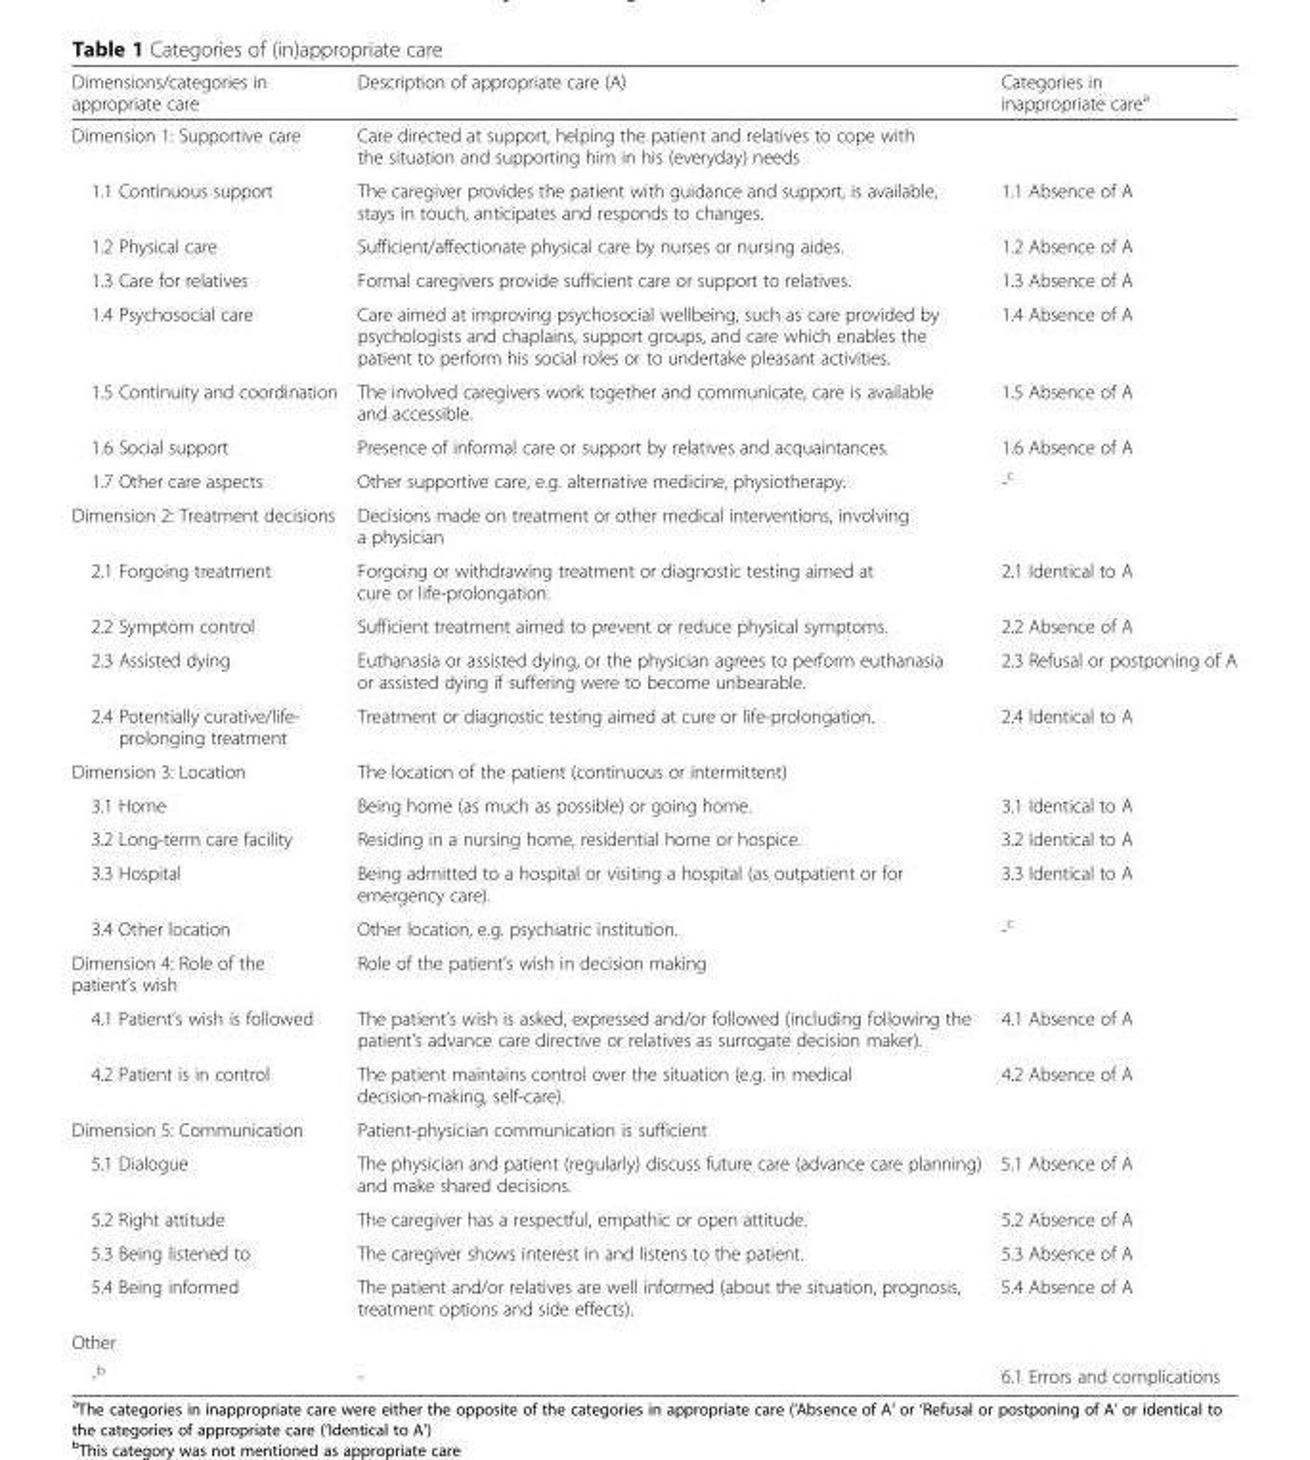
<table><thead><tr><td>Dimensions/categories in appropriate care</td><td>Description of appropriate care (A)</td><td>Categories in inappropriate care<sup>a</sup></td></tr></thead><tbody><tr><td>Dimension 1: Supportive care</td><td>Care directed at support, helping the patient and relatives to cope with the situation and supporting him in his (everyday) needs</td><td></td></tr><tr><td>1.1 Continuous support</td><td>The caregiver provides the patient with guidance and support, is available, stays in touch, anticipates and responds to changes.</td><td>1.1 Absence of A</td></tr><tr><td>1.2 Physical care</td><td>Sufficient/affectionate physical care by nurses or nursing aides.</td><td>1.2 Absence of A</td></tr><tr><td>1.3 Care for relatives</td><td>Formal caregivers provide sufficient care or support to relatives.</td><td>1.3 Absence of A</td></tr><tr><td>1.4 Psychosocial care</td><td>Care aimed at improving psychosocial wellbeing, such as care provided by psychologists and chaplains, support groups, and care which enables the patient to perform his social roles or to undertake pleasant activities.</td><td>1.4 Absence of A</td></tr><tr><td>1.5 Continuity and coordination</td><td>The involved caregivers work together and communicate, care is available and accessible.</td><td>1.5 Absence of A</td></tr><tr><td>1.6 Social support</td><td>Presence of informal care or support by relatives and acquaintances.</td><td>1.6 Absence of A</td></tr><tr><td>1.7 Other care aspects</td><td>Other supportive care, e.g. alternative medicine, physiotherapy.</td><td>-<sup>c</sup></td></tr><tr><td>Dimension 2: Treatment decisions</td><td>Decisions made on treatment or other medical interventions, involving a physician</td><td></td></tr><tr><td>2.1 Forgoing treatment</td><td>Forgoing or withdrawing treatment or diagnostic testing aimed at cure or life-prolongation.</td><td>2.1 Identical to A</td></tr><tr><td>2.2 Symptom control</td><td>Sufficient treatment aimed to prevent or reduce physical symptoms.</td><td>2.2 Absence of A</td></tr><tr><td>2.3 Assisted dying</td><td>Euthanasia or assisted dying, or the physician agrees to perform euthanasia or assisted dying if suffering were to become unbearable.</td><td>2.3 Refusal or postponing of A</td></tr><tr><td>2.4 Potentially curative/life- prolonging treatment</td><td>Treatment or diagnostic testing aimed at cure or life-prolongation.</td><td>2.4 Identical to A</td></tr><tr><td>Dimension 3: Location</td><td>The location of the patient (continuous or intermittent)</td><td></td></tr><tr><td>3.1 Home</td><td>Being home (as much as possible) or going home.</td><td>3.1 Identical to A</td></tr><tr><td>3.2 Long-term care facility</td><td>Residing in a nursing home, residential home or hospice.</td><td>3.2 Identical to A</td></tr><tr><td>3.3 Hospital</td><td>Being admitted to a hospital or visiting a hospital (as outpatient or for emergency care).</td><td>3.3 Identical to A</td></tr><tr><td>3.4 Other location</td><td>Other location, e.g. psychiatric institution.</td><td>-<sup>c</sup></td></tr><tr><td>Dimension 4: Role of the patient’s wish</td><td>Role of the patient’s wish in decision making</td><td></td></tr><tr><td>4.1 Patient’s wish is followed</td><td>The patient’s wish is asked, expressed and/or followed (including following the patient’s advance care directive or relatives as surrogate decision maker).</td><td>4.1 Absence of A</td></tr><tr><td>4.2 Patient is in control</td><td>The patient maintains control over the situation (e.g. in medical decision-making, self-care).</td><td>4.2 Absence of A</td></tr><tr><td>Dimension 5: Communication</td><td>Patient-physician communication is sufficient</td><td></td></tr><tr><td>5.1 Dialogue</td><td>The physician and patient (regularly) discuss future care (advance care planning) and make shared decisions.</td><td>5.1 Absence of A</td></tr><tr><td>5.2 Right attitude</td><td>The caregiver has a respectful, empathic or open attitude.</td><td>5.2 Absence of A</td></tr><tr><td>5.3 Being listened to</td><td>The caregiver shows interest in and listens to the patient.</td><td>5.3 Absence of A</td></tr><tr><td>5.4 Being informed</td><td>The patient and/or relatives are well informed (about the situation, prognosis, treatment options and side effects).</td><td>5.4 Absence of A</td></tr><tr><td colspan="3">Other</td></tr><tr><td>-<sup>b</sup></td><td>-</td><td>6.1 Errors and complications</td></tr></tbody></table>